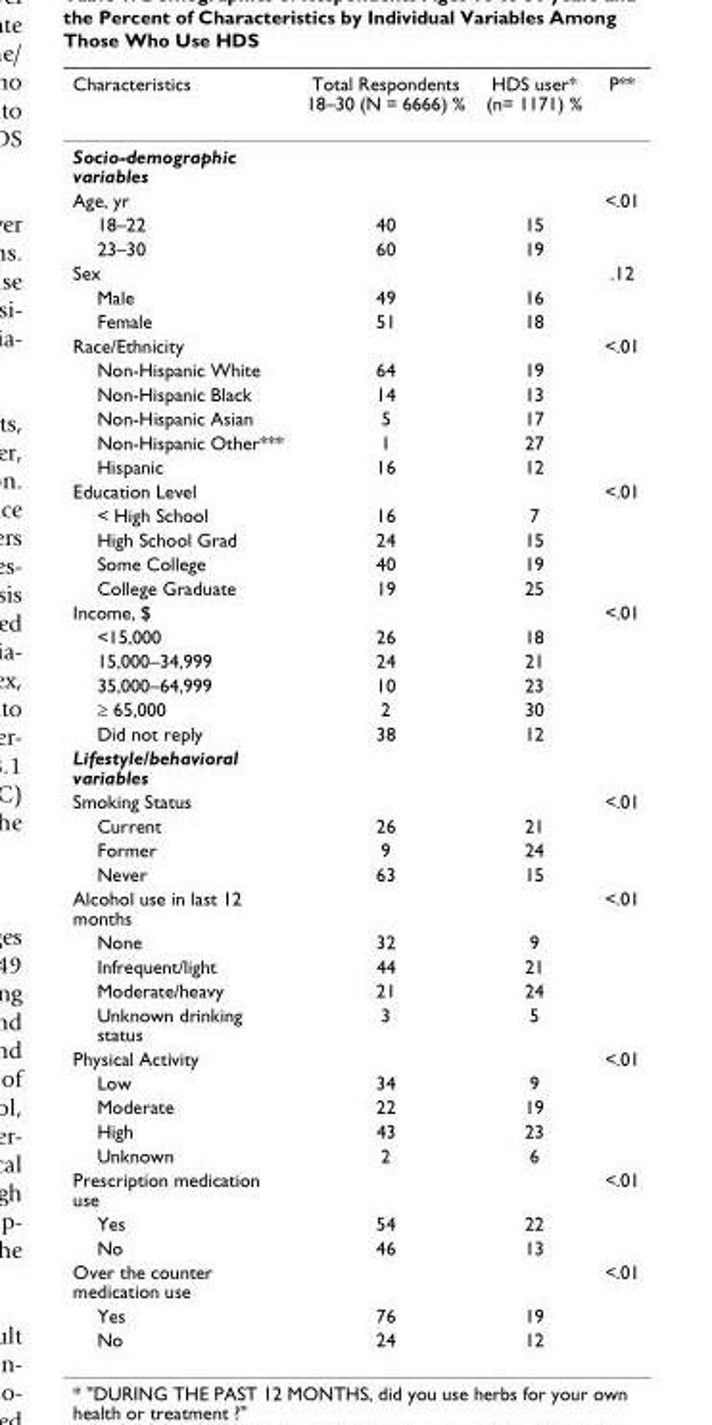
<table><thead><tr><td>Characteristics</td><td>Total Respondents 18–30 (N = 6666) %</td><td>HDS user* (n= 1171) %</td><td>P**</td></tr></thead><tbody><tr><td colspan="4">Socio-demographic variables</td></tr><tr><td>Age, yr</td><td></td><td></td><td>&lt;.01</td></tr><tr><td>18–22</td><td>40</td><td>15</td><td></td></tr><tr><td>23–30</td><td>60</td><td>19</td><td></td></tr><tr><td>Sex</td><td></td><td></td><td>.12</td></tr><tr><td>Male</td><td>49</td><td>16</td><td></td></tr><tr><td>Female</td><td>51</td><td>18</td><td></td></tr><tr><td>Race/Ethnicity</td><td></td><td></td><td>&lt;.01</td></tr><tr><td>Non-Hispanic White</td><td>64</td><td>19</td><td></td></tr><tr><td>Non-Hispanic Black</td><td>14</td><td>13</td><td></td></tr><tr><td>Non-Hispanic Asian</td><td>5</td><td>17</td><td></td></tr><tr><td>Non-Hispanic Other***</td><td>1</td><td>27</td><td></td></tr><tr><td>Hispanic</td><td>16</td><td>12</td><td></td></tr><tr><td>Education Level</td><td></td><td></td><td>&lt;.01</td></tr><tr><td>&lt; High School</td><td>16</td><td>7</td><td></td></tr><tr><td>High School Grad</td><td>24</td><td>15</td><td></td></tr><tr><td>Some College</td><td>40</td><td>19</td><td></td></tr><tr><td>College Graduate</td><td>19</td><td>25</td><td></td></tr><tr><td>Income, $</td><td></td><td></td><td>&lt;.01</td></tr><tr><td>&lt;15,000</td><td>26</td><td>18</td><td></td></tr><tr><td>15,000–34,999</td><td>24</td><td>21</td><td></td></tr><tr><td>35,000–64,999</td><td>10</td><td>23</td><td></td></tr><tr><td>≥ 65,000</td><td>2</td><td>30</td><td></td></tr><tr><td>Did not reply</td><td>38</td><td>12</td><td></td></tr><tr><td colspan="4">Lifestyle/behavioral variables</td></tr><tr><td>Smoking Status</td><td></td><td></td><td>&lt;.01</td></tr><tr><td>Current</td><td>26</td><td>21</td><td></td></tr><tr><td>Former</td><td>9</td><td>24</td><td></td></tr><tr><td>Never</td><td>63</td><td>15</td><td></td></tr><tr><td>Alcohol use in last 12 months</td><td></td><td></td><td>&lt;.01</td></tr><tr><td>None</td><td>32</td><td>9</td><td></td></tr><tr><td>Infrequent/light</td><td>44</td><td>21</td><td></td></tr><tr><td>Moderate/heavy</td><td>21</td><td>24</td><td></td></tr><tr><td>Unknown drinking status</td><td>3</td><td>5</td><td></td></tr><tr><td>Physical Activity</td><td></td><td></td><td>&lt;.01</td></tr><tr><td>Low</td><td>34</td><td>9</td><td></td></tr><tr><td>Moderate</td><td>22</td><td>19</td><td></td></tr><tr><td>High</td><td>43</td><td>23</td><td></td></tr><tr><td>Unknown</td><td>2</td><td>6</td><td></td></tr><tr><td>Prescription medication use</td><td></td><td></td><td>&lt;.01</td></tr><tr><td>Yes</td><td>54</td><td>22</td><td></td></tr><tr><td>No</td><td>46</td><td>13</td><td></td></tr><tr><td>Over the counter medication use</td><td></td><td></td><td>&lt;.01</td></tr><tr><td>Yes</td><td>76</td><td>19</td><td></td></tr><tr><td>No</td><td>24</td><td>12</td><td></td></tr></tbody></table>